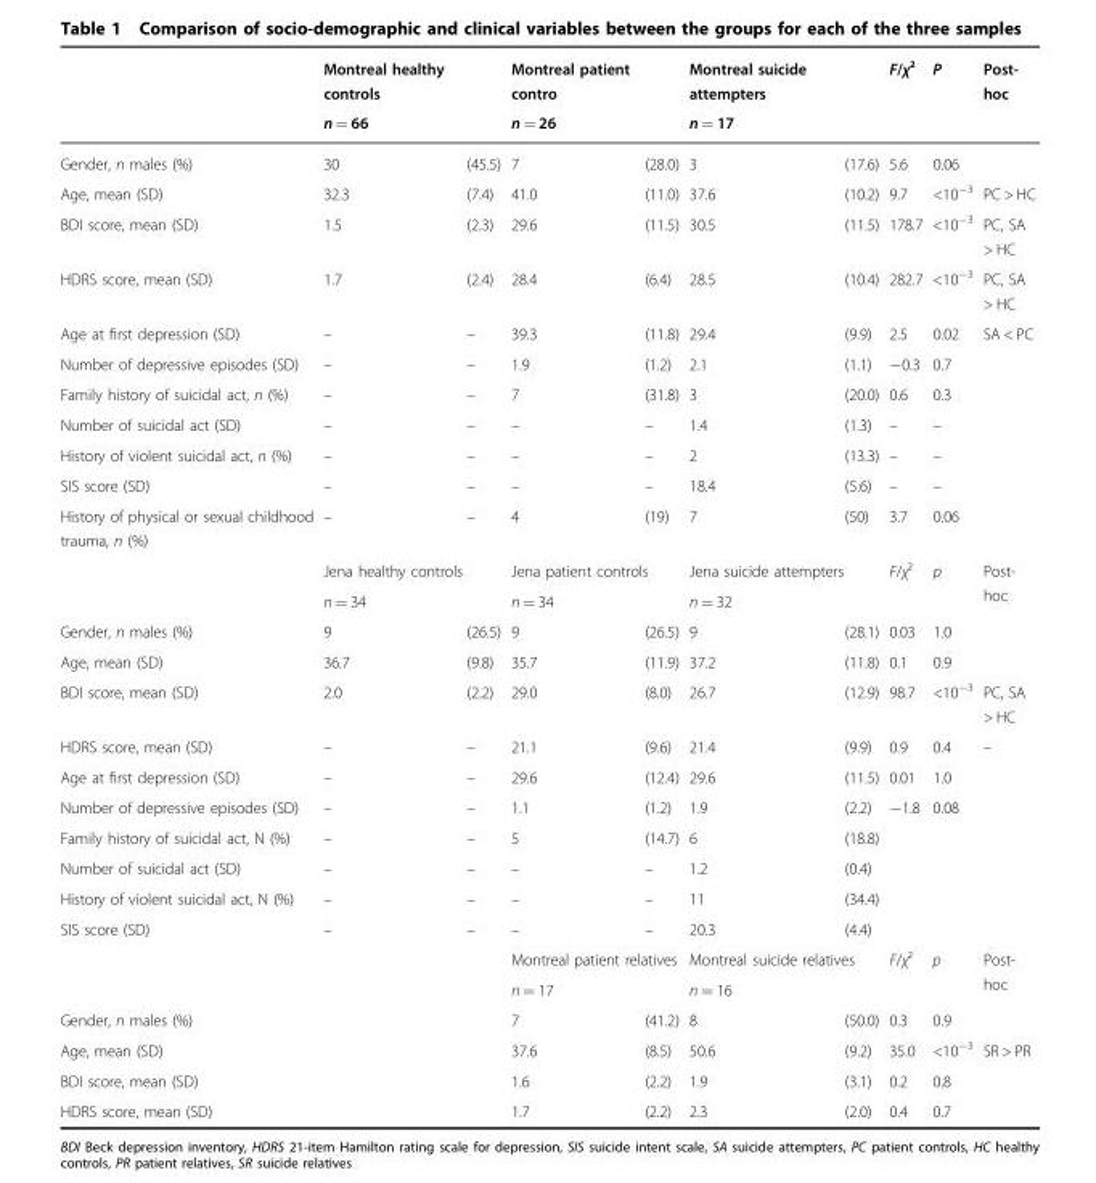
<table><thead><tr><td rowspan="2"></td><td rowspan="2">Montreal healthy controls n = 66</td><td rowspan="2"></td><td rowspan="2">Montreal patient contro n = 26</td><td rowspan="2"></td><td rowspan="2">Montreal suicide attempters n = 17</td><td rowspan="2"></td><td rowspan="2">F/χ²</td><td rowspan="2">P</td><td rowspan="2">Post- hoc</td></tr><tr></tr></thead><tbody><tr><td>Gender, n males (%)</td><td>30</td><td>(45.5)</td><td>7</td><td>(28.0)</td><td>3</td><td>(17.6)</td><td>5.6</td><td>0.06</td><td></td></tr><tr><td>Age, mean (SD)</td><td>32.3</td><td>(7.4)</td><td>41.0</td><td>(11.0)</td><td>37.6</td><td>(10.2)</td><td>9.7</td><td>&lt;10<sup>−3</sup></td><td>PC &gt; HC</td></tr><tr><td>BDI score, mean (SD)</td><td>1.5</td><td>(2.3)</td><td>29.6</td><td>(11.5)</td><td>30.5</td><td>(11.5)</td><td>178.7</td><td>&lt;10<sup>−3</sup></td><td>PC, SA &gt; HC</td></tr><tr><td>HDRS score, mean (SD)</td><td>1.7</td><td>(2.4)</td><td>28.4</td><td>(6.4)</td><td>28.5</td><td>(10.4)</td><td>282.7</td><td>&lt;10<sup>−3</sup></td><td>PC, SA &gt; HC</td></tr><tr><td>Age at first depression (SD)</td><td>–</td><td>–</td><td>39.3</td><td>(11.8)</td><td>29.4</td><td>(9.9)</td><td>2.5</td><td>0.02</td><td>SA &lt; PC</td></tr><tr><td>Number of depressive episodes (SD)</td><td>–</td><td>–</td><td>1.9</td><td>(1.2)</td><td>2.1</td><td>(1.1)</td><td>−0.3</td><td>0.7</td><td rowspan="6"></td></tr><tr><td>Family history of suicidal act, n (%)</td><td>–</td><td>–</td><td>7</td><td>(31.8)</td><td>3</td><td>(20.0)</td><td>0.6</td><td>0.3</td></tr><tr><td>Number of suicidal act (SD)</td><td>–</td><td>–</td><td>–</td><td>–</td><td>1.4</td><td>(1.3)</td><td>–</td><td>–</td></tr><tr><td>History of violent suicidal act, n (%)</td><td>–</td><td>–</td><td>–</td><td>–</td><td>2</td><td>(13.3)</td><td>–</td><td>–</td></tr><tr><td>SIS score (SD)</td><td>–</td><td>–</td><td>–</td><td>–</td><td>18.4</td><td>(5.6)</td><td>–</td><td>–</td></tr><tr><td rowspan="3">History of physical or sexual childhood trauma, n (%)</td><td>–</td><td>–</td><td>4</td><td>(19)</td><td>7</td><td>(50)</td><td>3.7</td><td>0.06</td></tr><tr><td colspan="2">Jena healthy controls</td><td colspan="2">Jena patient controls</td><td colspan="2">Jena suicide attempters</td><td rowspan="2">F/χ²</td><td rowspan="2">p</td><td rowspan="2">Post- hoc</td></tr><tr><td colspan="2">n = 34</td><td colspan="2">n = 34</td><td colspan="2">n = 32</td></tr><tr><td>Gender, n males (%)</td><td>9</td><td>(26.5)</td><td>9</td><td>(26.5)</td><td>9</td><td>(28.1)</td><td>0.03</td><td>1.0</td><td rowspan="2"></td></tr><tr><td>Age, mean (SD)</td><td>36.7</td><td>(9.8)</td><td>35.7</td><td>(11.9)</td><td>37.2</td><td>(11.8)</td><td>0.1</td><td>0.9</td></tr><tr><td>BDI score, mean (SD)</td><td>2.0</td><td>(2.2)</td><td>29.0</td><td>(8.0)</td><td>26.7</td><td>(12.9)</td><td>98.7</td><td>&lt;10<sup>−3</sup></td><td>PC, SA &gt; HC</td></tr><tr><td>HDRS score, mean (SD)</td><td>–</td><td>–</td><td>21.1</td><td>(9.6)</td><td>21.4</td><td>(9.9)</td><td>0.9</td><td>0.4</td><td rowspan="7">–</td></tr><tr><td>Age at first depression (SD)</td><td>–</td><td>–</td><td>29.6</td><td>(12.4)</td><td>29.6</td><td>(11.5)</td><td>0.01</td><td>1.0</td></tr><tr><td>Number of depressive episodes (SD)</td><td>–</td><td>–</td><td>1.1</td><td>(1.2)</td><td>1.9</td><td>(2.2)</td><td>−1.8</td><td>0.08</td></tr><tr><td>Family history of suicidal act, N (%)</td><td>–</td><td>–</td><td>5</td><td>(14.7)</td><td>6</td><td>(18.8)</td><td></td><td></td></tr><tr><td>Number of suicidal act (SD)</td><td>–</td><td>–</td><td>–</td><td>–</td><td>1.2</td><td>(0.4)</td><td></td><td></td></tr><tr><td>History of violent suicidal act, N (%)</td><td>–</td><td>–</td><td>–</td><td>–</td><td>11</td><td>(34.4)</td><td></td><td></td></tr><tr><td rowspan="3">SIS score (SD)</td><td>–</td><td>–</td><td>–</td><td>–</td><td>20.3</td><td>(4.4)</td><td></td><td></td></tr><tr><td></td><td></td><td colspan="2">Montreal patient relatives</td><td colspan="2">Montreal suicide relatives</td><td rowspan="2">F/χ²</td><td rowspan="2">p</td><td rowspan="2">Post- hoc</td></tr><tr><td></td><td></td><td colspan="2">n = 17</td><td colspan="2">n = 16</td></tr><tr><td>Gender, n males (%)</td><td rowspan="4"></td><td rowspan="4"></td><td>7</td><td>(41.2)</td><td>8</td><td>(50.0)</td><td>0.3</td><td>0.9</td><td></td></tr><tr><td>Age, mean (SD)</td><td>37.6</td><td>(8.5)</td><td>50.6</td><td>(9.2)</td><td>35.0</td><td>&lt;10<sup>−3</sup></td><td>SR &gt; PR</td></tr><tr><td>BDI score, mean (SD)</td><td>1.6</td><td>(2.2)</td><td>1.9</td><td>(3.1)</td><td>0.2</td><td>0.8</td><td rowspan="2"></td></tr><tr><td>HDRS score, mean (SD)</td><td>1.7</td><td>(2.2)</td><td>2.3</td><td>(2.0)</td><td>0.4</td><td>0.7</td></tr></tbody></table>